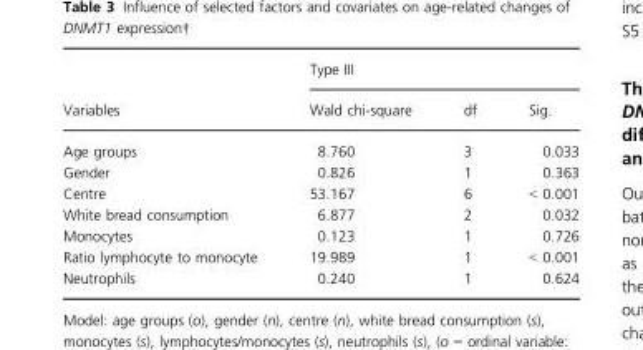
<table><thead><tr><td rowspan="2">Variables</td><td colspan="3">Type III</td></tr><tr><td>Wald chi-square</td><td>df</td><td>Sig.</td></tr></thead><tbody><tr><td>Age groups</td><td>8.760</td><td>3</td><td>0.033</td></tr><tr><td>Gender</td><td>0.826</td><td>1</td><td>0.363</td></tr><tr><td>Centre</td><td>53.167</td><td>6</td><td>&lt; 0.001</td></tr><tr><td>White bread consumption</td><td>6.877</td><td>2</td><td>0.032</td></tr><tr><td>Monocytes</td><td>0.123</td><td>1</td><td>0.726</td></tr><tr><td>Ratio lymphocyte to monocyte</td><td>19.989</td><td>1</td><td>&lt; 0.001</td></tr><tr><td>Neutrophils</td><td>0.240</td><td>1</td><td>0.624</td></tr></tbody></table>